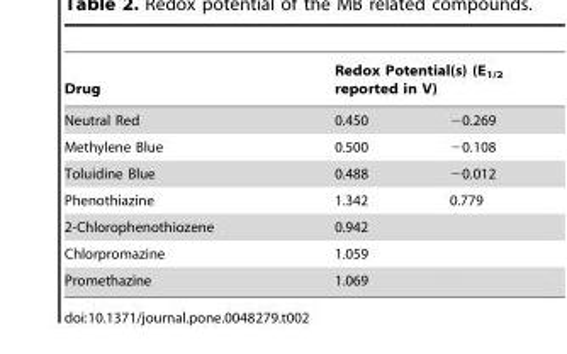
<table><thead><tr><td rowspan="2">Drug Neutral Red</td><td colspan="2">Redox Potential(s) (E<sub>1/2</sub> reported in V)</td></tr><tr><td>0.450</td><td>−0.269</td></tr></thead><tbody><tr><td>Methylene Blue</td><td>0.500</td><td>−0.108</td></tr><tr><td>Toluidine Blue</td><td>0.488</td><td>−0.012</td></tr><tr><td>Phenothiazine</td><td>1.342</td><td>0.779</td></tr><tr><td>2-Chlorophenothiozene</td><td>0.942</td><td></td></tr><tr><td>Chlorpromazine</td><td>1.059</td><td></td></tr><tr><td>Promethazine</td><td>1.069</td><td></td></tr></tbody></table>